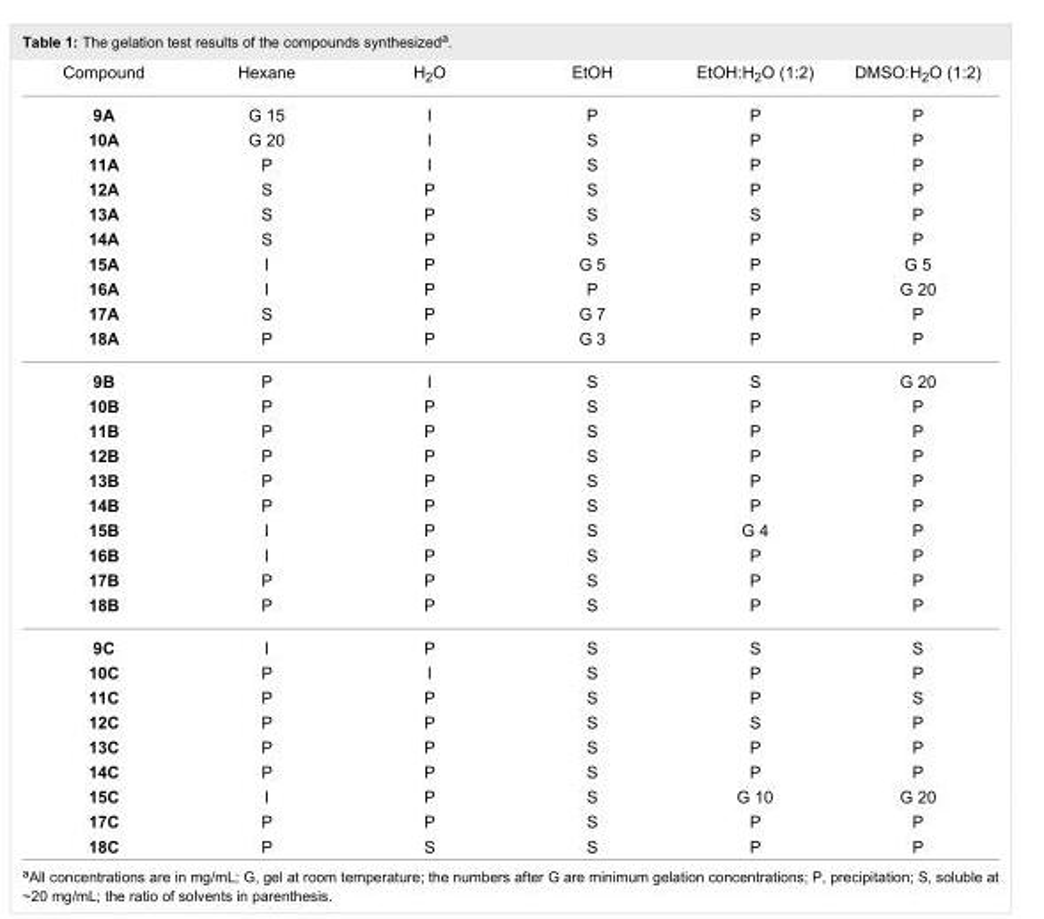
<table><tbody><tr><td>Compound</td><td>Hexane</td><td>H<sub>2</sub>O</td><td>EtOH</td><td>EtOH:H<sub>2</sub>O (1:2)</td><td>DMSO:H<sub>2</sub>O (1:2)</td></tr><tr><td>9A</td><td>G 15</td><td>I</td><td>P</td><td>P</td><td>P</td></tr><tr><td>10A</td><td>G 20</td><td>I</td><td>S</td><td>P</td><td>P</td></tr><tr><td>11A</td><td>P</td><td>I</td><td>S</td><td>P</td><td>P</td></tr><tr><td>12A</td><td>S</td><td>P</td><td>S</td><td>P</td><td>P</td></tr><tr><td>13A</td><td>S</td><td>P</td><td>S</td><td>S</td><td>P</td></tr><tr><td>14A</td><td>S</td><td>P</td><td>S</td><td>P</td><td>P</td></tr><tr><td>15A</td><td>I</td><td>P</td><td>G 5</td><td>P</td><td>G 5</td></tr><tr><td>16A</td><td>I</td><td>P</td><td>P</td><td>P</td><td>G 20</td></tr><tr><td>17A</td><td>S</td><td>P</td><td>G 7</td><td>P</td><td>P</td></tr><tr><td>18A</td><td>P</td><td>P</td><td>G 3</td><td>P</td><td>P</td></tr><tr><td>9B</td><td>P</td><td>I</td><td>S</td><td>S</td><td>G 20</td></tr><tr><td>10B</td><td>P</td><td>P</td><td>S</td><td>P</td><td>P</td></tr><tr><td>11B</td><td>P</td><td>P</td><td>S</td><td>P</td><td>P</td></tr><tr><td>12B</td><td>P</td><td>P</td><td>S</td><td>P</td><td>P</td></tr><tr><td>13B</td><td>P</td><td>P</td><td>S</td><td>P</td><td>P</td></tr><tr><td>14B</td><td>P</td><td>P</td><td>S</td><td>P</td><td>P</td></tr><tr><td>15B</td><td>I</td><td>P</td><td>S</td><td>G 4</td><td>P</td></tr><tr><td>16B</td><td>I</td><td>P</td><td>S</td><td>P</td><td>P</td></tr><tr><td>17B</td><td>P</td><td>P</td><td>S</td><td>P</td><td>P</td></tr><tr><td>18B</td><td>P</td><td>P</td><td>S</td><td>P</td><td>P</td></tr><tr><td>9C</td><td>I</td><td>P</td><td>S</td><td>S</td><td>S</td></tr><tr><td>10C</td><td>P</td><td>I</td><td>S</td><td>P</td><td>P</td></tr><tr><td>11C</td><td>P</td><td>P</td><td>S</td><td>P</td><td>S</td></tr><tr><td>12C</td><td>P</td><td>P</td><td>S</td><td>S</td><td>P</td></tr><tr><td>13C</td><td>P</td><td>P</td><td>S</td><td>P</td><td>P</td></tr><tr><td>14C</td><td>P</td><td>P</td><td>S</td><td>P</td><td>P</td></tr><tr><td>15C</td><td>I</td><td>P</td><td>S</td><td>G 10</td><td>G 20</td></tr><tr><td>17C</td><td>P</td><td>P</td><td>S</td><td>P</td><td>P</td></tr><tr><td>18C</td><td>P</td><td>S</td><td>S</td><td>P</td><td>P</td></tr></tbody></table>